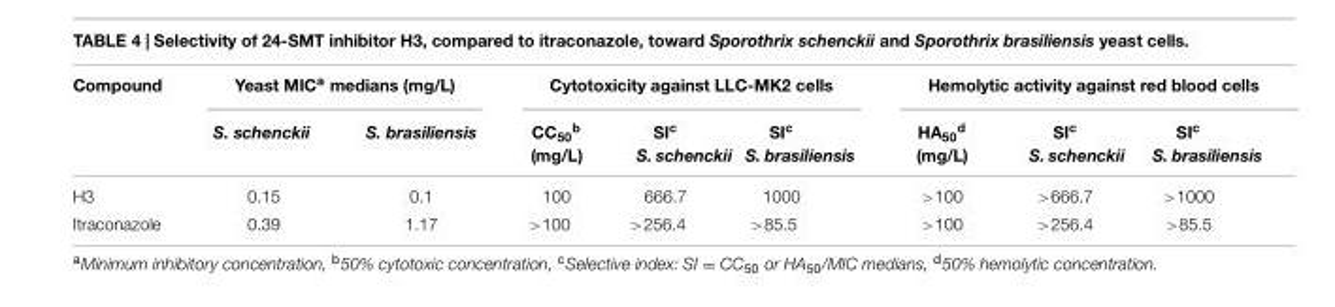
<table><thead><tr><td rowspan="2">Compound</td><td colspan="2">Yeast MIC<sup>a</sup> medians (mg/L)</td><td colspan="3">Cytotoxicity against LLC-MK2 cells</td><td colspan="3">Hemolytic activity against red blood cells</td></tr><tr><td>S. schenckii</td><td>S. brasiliensis</td><td>CC<sub>50</sub><sup>b</sup> (mg/L)</td><td>SI<sup>c</sup> S. schenckii</td><td>SI<sup>c</sup> S. brasiliensis</td><td>HA<sub>50</sub><sup>d</sup> (mg/L)</td><td>SI<sup>c</sup> S. schenckii</td><td>SI<sup>c</sup> S. brasiliensis</td></tr></thead><tbody><tr><td>H3</td><td>0.15</td><td>0.1</td><td>100</td><td>666.7</td><td>1000</td><td>&gt;100</td><td>&gt;666.7</td><td>&gt;1000</td></tr><tr><td>Itraconazole</td><td>0.39</td><td>1.17</td><td>&gt;100</td><td>&gt;256.4</td><td>&gt;85.5</td><td>&gt;100</td><td>&gt;256.4</td><td>&gt;85.5</td></tr></tbody></table>